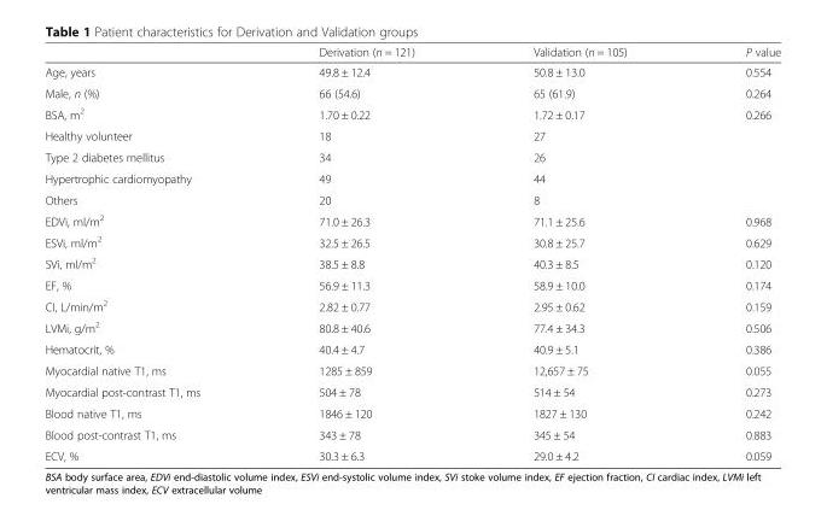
<table><thead><tr><td></td><td>Derivation (n = 121)</td><td>Validation (n = 105)</td><td>P value</td></tr></thead><tbody><tr><td>Age, years</td><td>49.8 ± 12.4</td><td>50.8 ± 13.0</td><td>0.554</td></tr><tr><td>Male, n (%)</td><td>66 (54.6)</td><td>65 (61.9)</td><td>0.264</td></tr><tr><td>BSA, m<sup>2</sup></td><td>1.70 ± 0.22</td><td>1.72 ± 0.17</td><td>0.266</td></tr><tr><td>Healthy volunteer</td><td>18</td><td>27</td><td></td></tr><tr><td>Type 2 diabetes mellitus</td><td>34</td><td>26</td><td></td></tr><tr><td>Hypertrophic cardiomyopathy</td><td>49</td><td>44</td><td></td></tr><tr><td>Others</td><td>20</td><td>8</td><td></td></tr><tr><td>EDVi, ml/m<sup>2</sup></td><td>71.0 ± 26.3</td><td>71.1 ± 25.6</td><td>0.968</td></tr><tr><td>ESVi, ml/m<sup>2</sup></td><td>32.5 ± 26.5</td><td>30.8 ± 25.7</td><td>0.629</td></tr><tr><td>SVi, ml/m<sup>2</sup></td><td>38.5 ± 8.8</td><td>40.3 ± 8.5</td><td>0.120</td></tr><tr><td>EF, %</td><td>56.9 ± 11.3</td><td>58.9 ± 10.0</td><td>0.174</td></tr><tr><td>CI, L/min/m<sup>2</sup></td><td>2.82 ± 0.77</td><td>2.95 ± 0.62</td><td>0.159</td></tr><tr><td>LVMi, g/m<sup>2</sup></td><td>80.8 ± 40.6</td><td>77.4 ± 34.3</td><td>0.506</td></tr><tr><td>Hematocrit, %</td><td>40.4 ± 4.7</td><td>40.9 ± 5.1</td><td>0.386</td></tr><tr><td>Myocardial native T1, ms</td><td>1285 ± 859</td><td>12,657 ± 75</td><td>0.055</td></tr><tr><td>Myocardial post-contrast T1, ms</td><td>504 ± 78</td><td>514 ± 54</td><td>0.273</td></tr><tr><td>Blood native T1, ms</td><td>1846 ± 120</td><td>1827 ± 130</td><td>0.242</td></tr><tr><td>Blood post-contrast T1, ms</td><td>343 ± 78</td><td>345 ± 54</td><td>0.883</td></tr><tr><td>ECV, %</td><td>30.3 ± 6.3</td><td>29.0 ± 4.2</td><td>0.059</td></tr></tbody></table>